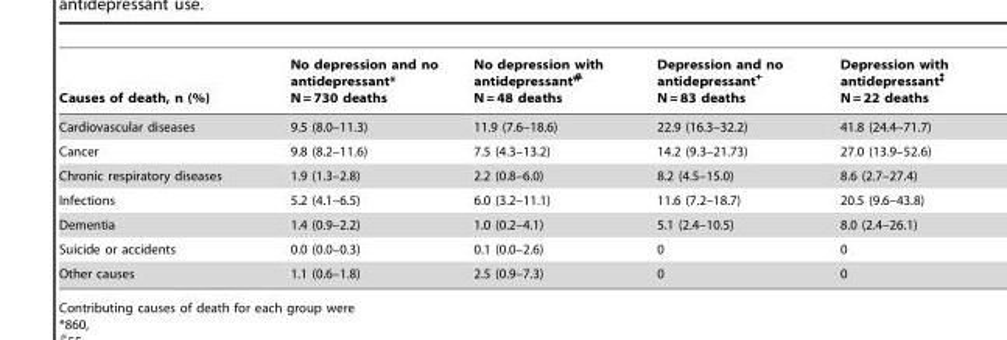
<table><thead><tr><td>Causes of death, n (%)</td><td>No depression and no antidepressant* N = 730 deaths</td><td>No depression with antidepressant# N = 48 deaths</td><td>Depression and no antidepressant+ N = 83 deaths</td><td>Depression with antidepressant‡ N = 22 deaths</td></tr></thead><tbody><tr><td>Cardiovascular diseases</td><td>9.5 (8.0–11.3)</td><td>11.9 (7.6–18.6)</td><td>22.9 (16.3–32.2)</td><td>41.8 (24.4–71.7)</td></tr><tr><td>Cancer</td><td>9.8 (8.2–11.6)</td><td>7.5 (4.3–13.2)</td><td>14.2 (9.3–21.73)</td><td>27.0 (13.9–52.6)</td></tr><tr><td>Chronic respiratory diseases</td><td>1.9 (1.3–2.8)</td><td>2.2 (0.8–6.0)</td><td>8.2 (4.5–15.0)</td><td>8.6 (2.7–27.4)</td></tr><tr><td>Infections</td><td>5.2 (4.1–6.5)</td><td>6.0 (3.2–11.1)</td><td>11.6 (7.2–18.7)</td><td>20.5 (9.6–43.8)</td></tr><tr><td>Dementia</td><td>1.4 (0.9–2.2)</td><td>1.0 (0.2–4.1)</td><td>5.1 (2.4–10.5)</td><td>8.0 (2.4–26.1)</td></tr><tr><td>Suicide or accidents</td><td>0.0 (0.0–0.3)</td><td>0.1 (0.0–2.6)</td><td>0</td><td>0</td></tr><tr><td>Other causes</td><td>1.1 (0.6–1.8)</td><td>2.5 (0.9–7.3)</td><td>0</td><td>0</td></tr></tbody></table>